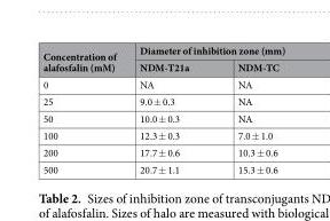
<table><thead><tr><td rowspan="2">Concentration of alafosfalin (mM)</td><td colspan="2">Diameter of inhibition zone (mm)</td></tr><tr><td>NDM-T21a</td><td>NDM-TC</td></tr></thead><tbody><tr><td>0</td><td>NA</td><td>NA</td></tr><tr><td>25</td><td>9.0 ± 0.3</td><td>NA</td></tr><tr><td>50</td><td>10.0 ± 0.3</td><td>NA</td></tr><tr><td>100</td><td>12.3 ± 0.3</td><td>7.0 ± 1.0</td></tr><tr><td>200</td><td>17.7 ± 0.6</td><td>10.3 ± 0.6</td></tr><tr><td>500</td><td>20.7 ± 1.1</td><td>15.3 ± 0.6</td></tr></tbody></table>